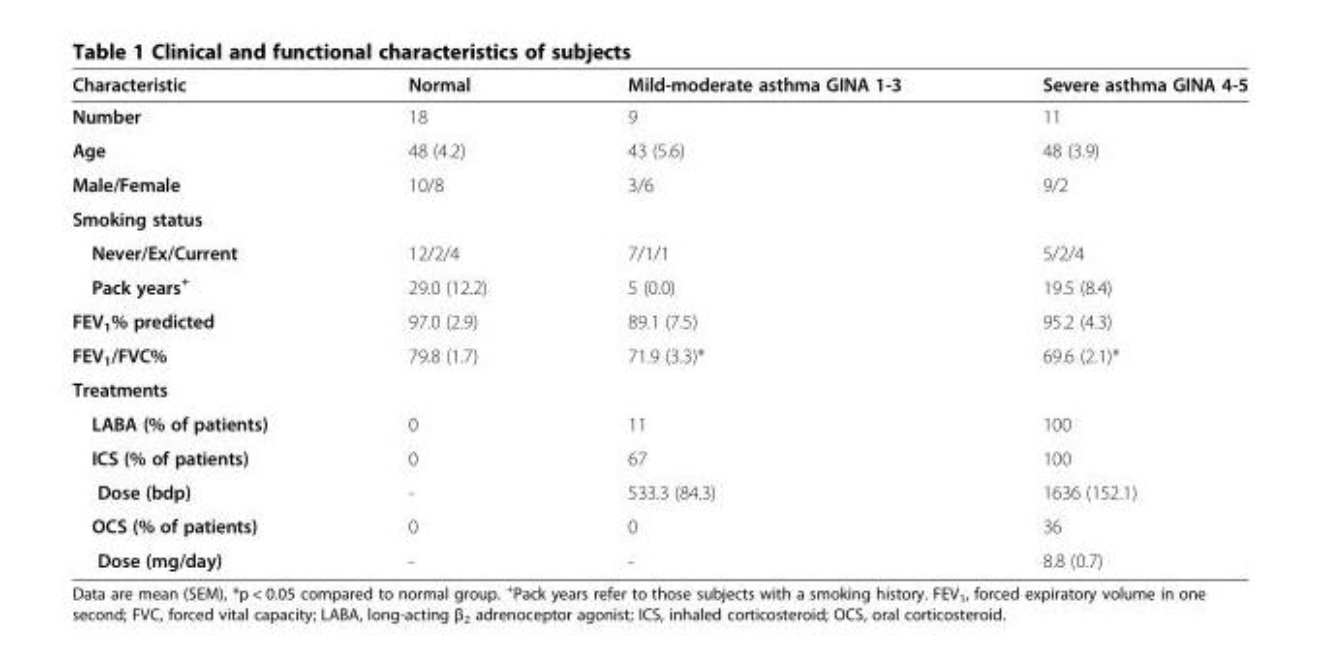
<table><thead><tr><td>Characteristic</td><td>Normal</td><td>Mild-moderate asthma GINA 1-3</td><td>Severe asthma GINA 4-5</td></tr></thead><tbody><tr><td>Number</td><td>18</td><td>9</td><td>11</td></tr><tr><td>Age</td><td>48 (4.2)</td><td>43 (5.6)</td><td>48 (3.9)</td></tr><tr><td>Male/Female</td><td>10/8</td><td>3/6</td><td>9/2</td></tr><tr><td colspan="4">Smoking status</td></tr><tr><td>Never/Ex/Current</td><td>12/2/4</td><td>7/1/1</td><td>5/2/4</td></tr><tr><td>Pack years<sup>+</sup></td><td>29.0 (12.2)</td><td>5 (0.0)</td><td>19.5 (8.4)</td></tr><tr><td>FEV<sub>1</sub>% predicted</td><td>97.0 (2.9)</td><td>89.1 (7.5)</td><td>95.2 (4.3)</td></tr><tr><td>FEV<sub>1</sub>/FVC%</td><td>79.8 (1.7)</td><td>71.9 (3.3)*</td><td>69.6 (2.1)*</td></tr><tr><td colspan="4">Treatments</td></tr><tr><td>LABA (% of patients)</td><td>0</td><td>11</td><td>100</td></tr><tr><td>ICS (% of patients)</td><td>0</td><td>67</td><td>100</td></tr><tr><td>Dose (bdp)</td><td>-</td><td>533.3 (84.3)</td><td>1636 (152.1)</td></tr><tr><td>OCS (% of patients)</td><td>0</td><td>0</td><td>36</td></tr><tr><td>Dose (mg/day)</td><td>-</td><td>-</td><td>8.8 (0.7)</td></tr></tbody></table>